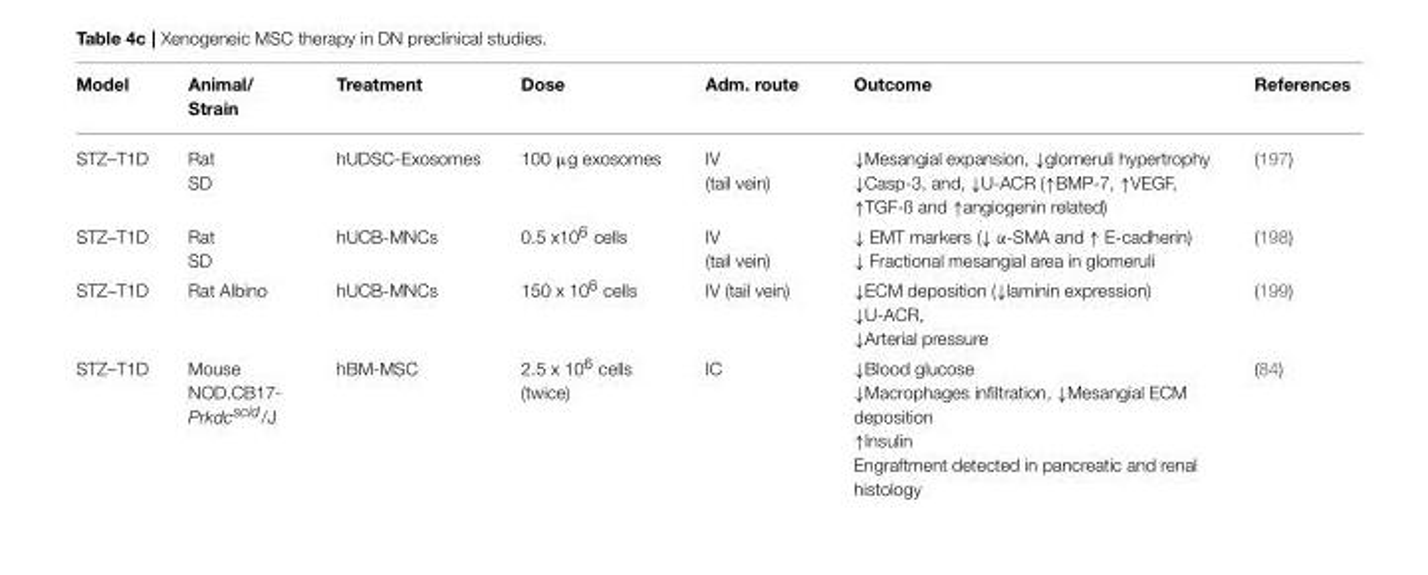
<table><thead><tr><td>Model</td><td>Animal/ Strain</td><td>Treatment</td><td>Dose</td><td>Adm. route</td><td>Outcome</td><td>References</td></tr></thead><tbody><tr><td>STZ–T1D</td><td>Rat SD</td><td>hUDSC-Exosomes</td><td>100 µg exosomes</td><td>IV (tail vein)</td><td>↓Mesangial expansion, ↓glomeruli hypertrophy ↓Casp-3, and, ↓U-ACR (↑BMP-7, ↑VEGF, ↑TGF-ß and ↑angiogenin related)</td><td>(197)</td></tr><tr><td>STZ–T1D</td><td>Rat SD</td><td>hUCB-MNCs</td><td>0.5 x10<sup>6</sup> cells</td><td>IV (tail vein)</td><td>↓ EMT markers (↓ α-SMA and ↑ E-cadherin) ↓ Fractional mesangial area in glomeruli</td><td>(198)</td></tr><tr><td>STZ–T1D</td><td>Rat Albino</td><td>hUCB-MNCs</td><td>150 x 10<sup>6</sup> cells</td><td>IV (tail vein)</td><td>↓ECM deposition (↓laminin expression) ↓U-ACR, ↓Arterial pressure</td><td>(199)</td></tr><tr><td>STZ–T1D</td><td>Mouse NOD.CB17- Prkdcscid/J</td><td>hBM-MSC</td><td>2.5 x 10<sup>6</sup> cells (twice)</td><td>IC</td><td>↓Blood glucose ↓Macrophages infiltration, ↓Mesangial ECM deposition ↑Insulin Engraftment detected in pancreatic and renal histology</td><td>(84)</td></tr></tbody></table>